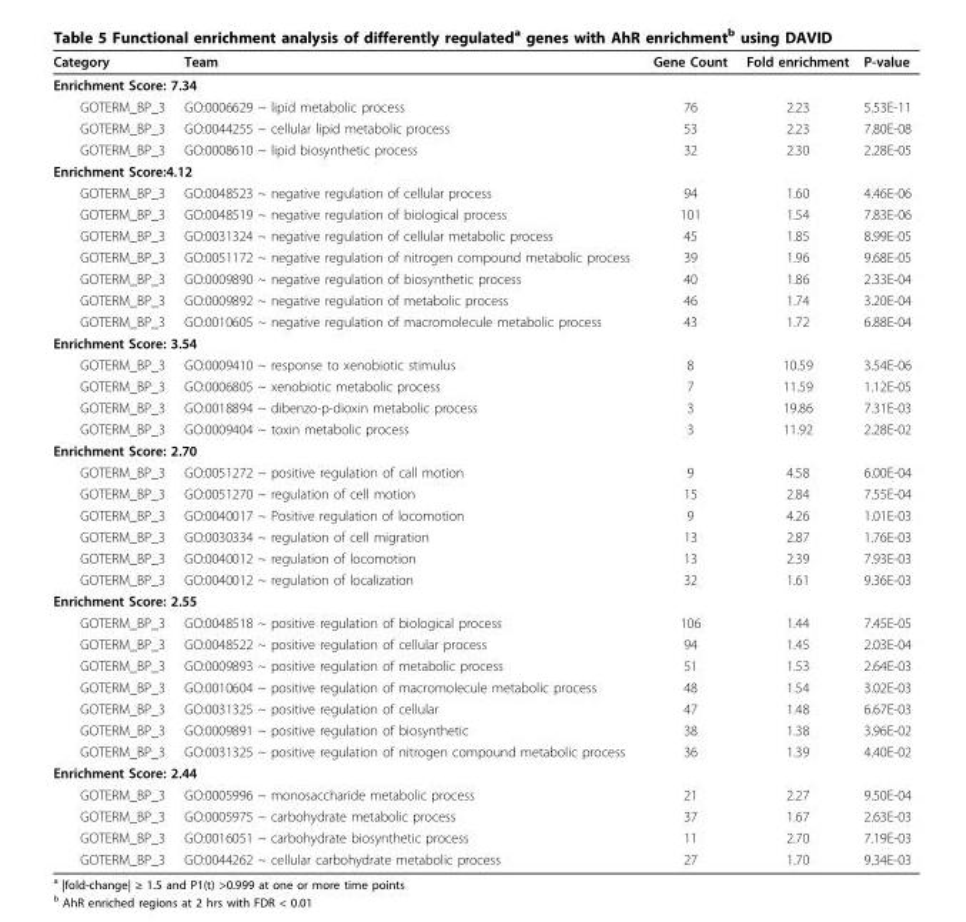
<table><thead><tr><td>Category</td><td>Team</td><td>Gene Count</td><td>Fold enrichment</td><td>P-value</td></tr></thead><tbody><tr><td colspan="5">Enrichment Score: 7.34</td></tr><tr><td>GOTERM_BP_3</td><td>GO:0006629 ~ lipid metabolic process</td><td>76</td><td>2.23</td><td>5.53E-11</td></tr><tr><td>GOTERM_BP_3</td><td>GO:0044255 ~ cellular lipid metabolic process</td><td>53</td><td>2.23</td><td>7.80E-08</td></tr><tr><td>GOTERM_BP_3</td><td>GO:0008610 ~ lipid biosynthetic process</td><td>32</td><td>2.30</td><td>2.28E-05</td></tr><tr><td colspan="5">Enrichment Score:4.12</td></tr><tr><td>GOTERM_BP_3</td><td>GO:0048523 ~ negative regulation of cellular process</td><td>94</td><td>1.60</td><td>4.46E-06</td></tr><tr><td>GOTERM_BP_3</td><td>GO:0048519 ~ negative regulation of biological process</td><td>101</td><td>1.54</td><td>7.83E-06</td></tr><tr><td>GOTERM_BP_3</td><td>GO:0031324 ~ negative regulation of cellular metabolic process</td><td>45</td><td>1.85</td><td>8.99E-05</td></tr><tr><td>GOTERM_BP_3</td><td>GO:0051172 ~ negative regulation of nitrogen compound metabolic process</td><td>39</td><td>1.96</td><td>9.68E-05</td></tr><tr><td>GOTERM_BP_3</td><td>GO:0009890 ~ negative regulation of biosynthetic process</td><td>40</td><td>1.86</td><td>2.33E-04</td></tr><tr><td>GOTERM_BP_3</td><td>GO:0009892 ~ negative regulation of metabolic process</td><td>46</td><td>1.74</td><td>3.20E-04</td></tr><tr><td>GOTERM_BP_3</td><td>GO:0010605 ~ negative regulation of macromolecule metabolic process</td><td>43</td><td>1.72</td><td>6.88E-04</td></tr><tr><td colspan="5">Enrichment Score: 3.54</td></tr><tr><td>GOTERM_BP_3</td><td>GO:0009410 ~ response to xenobiotic stimulus</td><td>8</td><td>10.59</td><td>3.54E-06</td></tr><tr><td>GOTERM_BP_3</td><td>GO:0006805 ~ xenobiotic metabolic process</td><td>7</td><td>11.59</td><td>1.12E-05</td></tr><tr><td>GOTERM_BP_3</td><td>GO:0018894 ~ dibenzo-p-dioxin metabolic process</td><td>3</td><td>19.86</td><td>7.31E-03</td></tr><tr><td>GOTERM_BP_3</td><td>GO:0009404 ~ toxin metabolic process</td><td>3</td><td>11.92</td><td>2.28E-02</td></tr><tr><td colspan="5">Enrichment Score: 2.70</td></tr><tr><td>GOTERM_BP_3</td><td>GO:0051272 ~ positive regulation of call motion</td><td>9</td><td>4.58</td><td>6.00E-04</td></tr><tr><td>GOTERM_BP_3</td><td>GO:0051270 ~ regulation of cell motion</td><td>15</td><td>2.84</td><td>7.55E-04</td></tr><tr><td>GOTERM_BP_3</td><td>GO:0040017 ~ Positive regulation of locomotion</td><td>9</td><td>4.26</td><td>1.01E-03</td></tr><tr><td>GOTERM_BP_3</td><td>GO:0030334 ~ regulation of cell migration</td><td>13</td><td>2.87</td><td>1.76E-03</td></tr><tr><td>GOTERM_BP_3</td><td>GO:0040012 ~ regulation of locomotion</td><td>13</td><td>2.39</td><td>7.93E-03</td></tr><tr><td>GOTERM_BP_3</td><td>GO:0040012 ~ regulation of localization</td><td>32</td><td>1.61</td><td>9.36E-03</td></tr><tr><td colspan="5">Enrichment Score: 2.55</td></tr><tr><td>GOTERM_BP_3</td><td>GO:0048518 ~ positive regulation of biological process</td><td>106</td><td>1.44</td><td>7.45E-05</td></tr><tr><td>GOTERM_BP_3</td><td>GO:0048522 ~ positive regulation of cellular process</td><td>94</td><td>1.45</td><td>2.03E-04</td></tr><tr><td>GOTERM_BP_3</td><td>GO:0009893 ~ positive regulation of metabolic process</td><td>51</td><td>1.53</td><td>2.64E-03</td></tr><tr><td>GOTERM_BP_3</td><td>GO:0010604 ~ positive regulation of macromolecule metabolic process</td><td>48</td><td>1.54</td><td>3.02E-03</td></tr><tr><td>GOTERM_BP_3</td><td>GO:0031325 ~ positive regulation of cellular</td><td>47</td><td>1.48</td><td>6.67E-03</td></tr><tr><td>GOTERM_BP_3</td><td>GO:0009891 ~ positive regulation of biosynthetic</td><td>38</td><td>1.38</td><td>3.96E-02</td></tr><tr><td>GOTERM_BP_3</td><td>GO:0031325 ~ positive regulation of nitrogen compound metabolic process</td><td>36</td><td>1.39</td><td>4.40E-02</td></tr><tr><td colspan="5">Enrichment Score: 2.44</td></tr><tr><td>GOTERM_BP_3</td><td>GO:0005996 ~ monosaccharide metabolic process</td><td>21</td><td>2.27</td><td>9.50E-04</td></tr><tr><td>GOTERM_BP_3</td><td>GO:0005975 ~ carbohydrate metabolic process</td><td>37</td><td>1.67</td><td>2.63E-03</td></tr><tr><td>GOTERM_BP_3</td><td>GO:0016051 ~ carbohydrate biosynthetic process</td><td>11</td><td>2.70</td><td>7.19E-03</td></tr><tr><td>GOTERM_BP_3</td><td>GO:0044262 ~ cellular carbohydrate metabolic process</td><td>27</td><td>1.70</td><td>9.34E-03</td></tr></tbody></table>